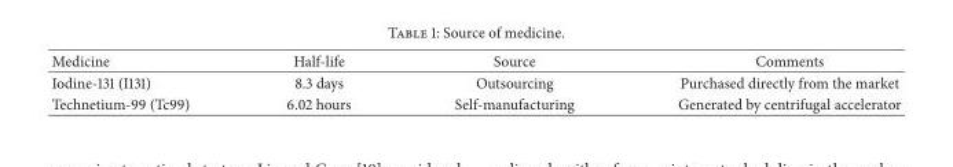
<table><thead><tr><td>Medicine</td><td>Half-life</td><td>Source</td><td>Comments</td></tr></thead><tbody><tr><td>Iodine-131 (I131)</td><td>8.3 days</td><td>Outsourcing</td><td>Purchased directly from the market</td></tr><tr><td>Technetium-99 (Tc99)</td><td>6.02 hours</td><td>Self-manufacturing</td><td>Generated by centrifugal accelerator</td></tr></tbody></table>